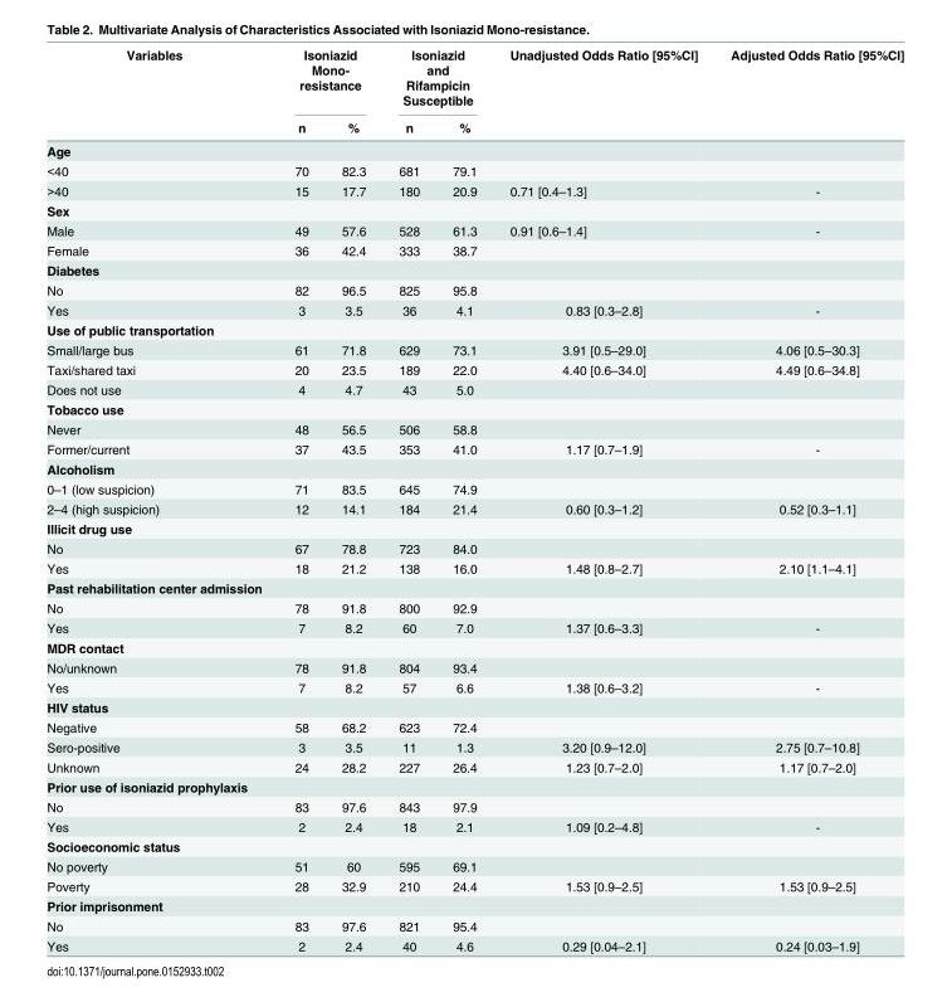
<table><thead><tr><td rowspan="2">Variables</td><td colspan="2">Isoniazid Mono- resistance</td><td colspan="2">Isoniazid and Rifampicin Susceptible</td><td rowspan="2">Unadjusted Odds Ratio [95%CI]</td><td rowspan="2">Adjusted Odds Ratio [95%CI]</td></tr><tr><td>n</td><td>%</td><td>n</td><td>%</td></tr></thead><tbody><tr><td colspan="7">Age</td></tr><tr><td>&lt;40</td><td>70</td><td>82.3</td><td>681</td><td>79.1</td><td></td><td></td></tr><tr><td>&gt;40</td><td>15</td><td>17.7</td><td>180</td><td>20.9</td><td>0.71 [0.4–1.3]</td><td>-</td></tr><tr><td colspan="7">Sex</td></tr><tr><td>Male</td><td>49</td><td>57.6</td><td>528</td><td>61.3</td><td>0.91 [0.6–1.4]</td><td>-</td></tr><tr><td>Female</td><td>36</td><td>42.4</td><td>333</td><td>38.7</td><td></td><td></td></tr><tr><td colspan="7">Diabetes</td></tr><tr><td>No</td><td>82</td><td>96.5</td><td>825</td><td>95.8</td><td></td><td></td></tr><tr><td>Yes</td><td>3</td><td>3.5</td><td>36</td><td>4.1</td><td>0.83 [0.3–2.8]</td><td>-</td></tr><tr><td colspan="7">Use of public transportation</td></tr><tr><td>Small/large bus</td><td>61</td><td>71.8</td><td>629</td><td>73.1</td><td>3.91 [0.5–29.0]</td><td>4.06 [0.5–30.3]</td></tr><tr><td>Taxi/shared taxi</td><td>20</td><td>23.5</td><td>189</td><td>22.0</td><td>4.40 [0.6–34.0]</td><td>4.49 [0.6–34.8]</td></tr><tr><td>Does not use</td><td>4</td><td>4.7</td><td>43</td><td>5.0</td><td></td><td></td></tr><tr><td colspan="7">Tobacco use</td></tr><tr><td>Never</td><td>48</td><td>56.5</td><td>506</td><td>58.8</td><td></td><td></td></tr><tr><td>Former/current</td><td>37</td><td>43.5</td><td>353</td><td>41.0</td><td>1.17 [0.7–1.9]</td><td>-</td></tr><tr><td colspan="7">Alcoholism</td></tr><tr><td>0–1 (low suspicion)</td><td>71</td><td>83.5</td><td>645</td><td>74.9</td><td></td><td></td></tr><tr><td>2–4 (high suspicion)</td><td>12</td><td>14.1</td><td>184</td><td>21.4</td><td>0.60 [0.3–1.2]</td><td>0.52 [0.3–1.1]</td></tr><tr><td colspan="7">Illicit drug use</td></tr><tr><td>No</td><td>67</td><td>78.8</td><td>723</td><td>84.0</td><td></td><td></td></tr><tr><td>Yes</td><td>18</td><td>21.2</td><td>138</td><td>16.0</td><td>1.48 [0.8–2.7]</td><td>2.10 [1.1–4.1]</td></tr><tr><td colspan="7">Past rehabilitation center admission</td></tr><tr><td>No</td><td>78</td><td>91.8</td><td>800</td><td>92.9</td><td></td><td></td></tr><tr><td>Yes</td><td>7</td><td>8.2</td><td>60</td><td>7.0</td><td>1.37 [0.6–3.3]</td><td>-</td></tr><tr><td colspan="7">MDR contact</td></tr><tr><td>No/unknown</td><td>78</td><td>91.8</td><td>804</td><td>93.4</td><td></td><td></td></tr><tr><td>Yes</td><td>7</td><td>8.2</td><td>57</td><td>6.6</td><td>1.38 [0.6–3.2]</td><td>-</td></tr><tr><td colspan="7">HIV status</td></tr><tr><td>Negative</td><td>58</td><td>68.2</td><td>623</td><td>72.4</td><td></td><td></td></tr><tr><td>Sero-positive</td><td>3</td><td>3.5</td><td>11</td><td>1.3</td><td>3.20 [0.9–12.0]</td><td>2.75 [0.7–10.8]</td></tr><tr><td>Unknown</td><td>24</td><td>28.2</td><td>227</td><td>26.4</td><td>1.23 [0.7–2.0]</td><td>1.17 [0.7–2.0]</td></tr><tr><td colspan="7">Prior use of isoniazid prophylaxis</td></tr><tr><td>No</td><td>83</td><td>97.6</td><td>843</td><td>97.9</td><td></td><td></td></tr><tr><td>Yes</td><td>2</td><td>2.4</td><td>18</td><td>2.1</td><td>1.09 [0.2–4.8]</td><td>-</td></tr><tr><td colspan="7">Socioeconomic status</td></tr><tr><td>No poverty</td><td>51</td><td>60</td><td>595</td><td>69.1</td><td></td><td></td></tr><tr><td>Poverty</td><td>28</td><td>32.9</td><td>210</td><td>24.4</td><td>1.53 [0.9–2.5]</td><td>1.53 [0.9–2.5]</td></tr><tr><td colspan="7">Prior imprisonment</td></tr><tr><td>No</td><td>83</td><td>97.6</td><td>821</td><td>95.4</td><td></td><td></td></tr><tr><td>Yes</td><td>2</td><td>2.4</td><td>40</td><td>4.6</td><td>0.29 [0.04–2.1]</td><td>0.24 [0.03–1.9]</td></tr></tbody></table>